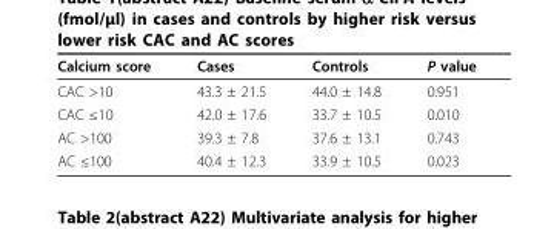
<table><thead><tr><td>Calcium score</td><td>Cases</td><td>Controls</td><td>P value</td></tr></thead><tbody><tr><td>CAC &gt;10</td><td>43.3 ± 21.5</td><td>44.0 ± 14.8</td><td>0.951</td></tr><tr><td>CAC ≤10</td><td>42.0 ± 17.6</td><td>33.7 ± 10.5</td><td>0.010</td></tr><tr><td>AC &gt;100</td><td>39.3 ± 7.8</td><td>37.6 ± 13.1</td><td>0.743</td></tr><tr><td>AC ≤100</td><td>40.4 ± 12.3</td><td>33.9 ± 10.5</td><td>0.023</td></tr></tbody></table>